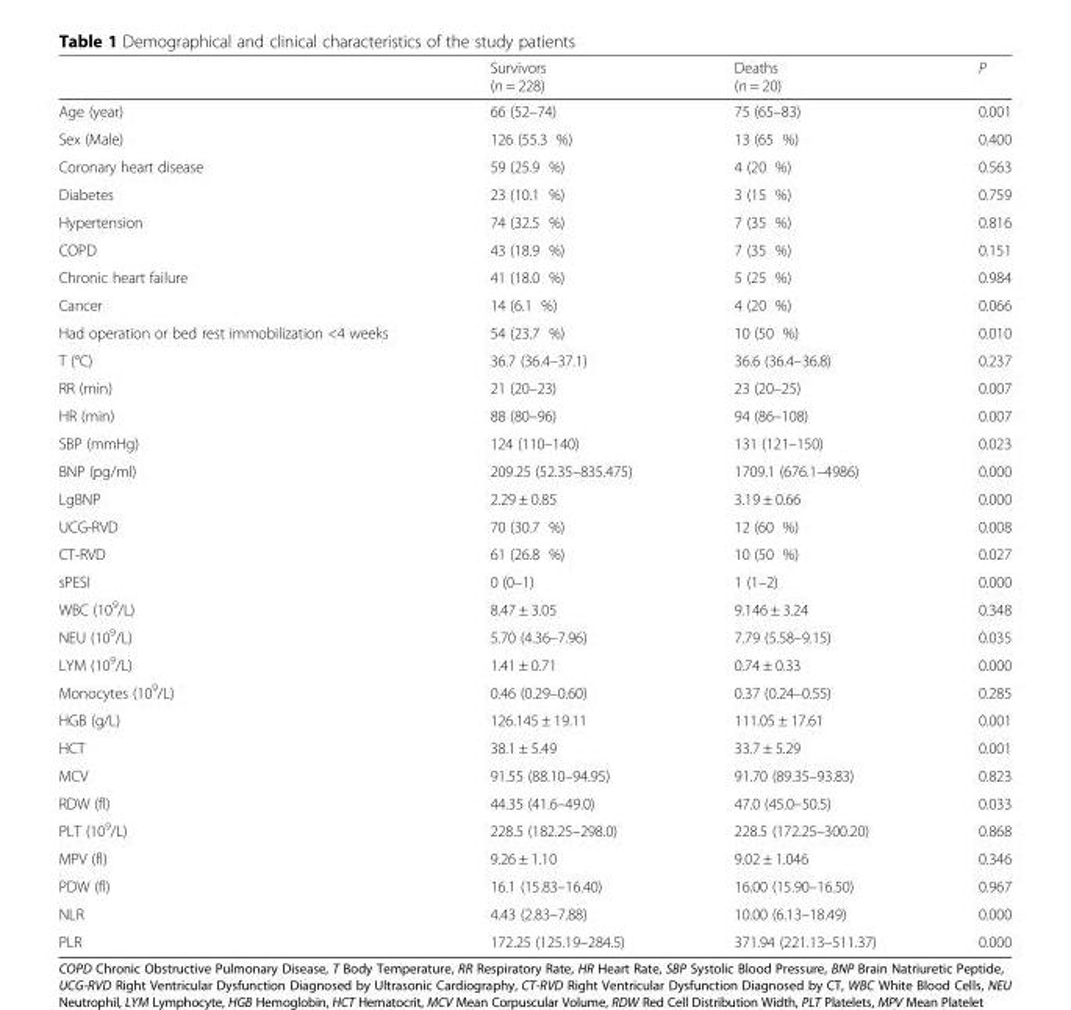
<table><thead><tr><td></td><td>Survivors (n = 228)</td><td>Deaths (n = 20)</td><td>P</td></tr></thead><tbody><tr><td>Age (year)</td><td>66 (52–74)</td><td>75 (65–83)</td><td>0.001</td></tr><tr><td>Sex (Male)</td><td>126 (55.3 %)</td><td>13 (65 %)</td><td>0.400</td></tr><tr><td>Coronary heart disease</td><td>59 (25.9 %)</td><td>4 (20 %)</td><td>0.563</td></tr><tr><td>Diabetes</td><td>23 (10.1 %)</td><td>3 (15 %)</td><td>0.759</td></tr><tr><td>Hypertension</td><td>74 (32.5 %)</td><td>7 (35 %)</td><td>0.816</td></tr><tr><td>COPD</td><td>43 (18.9 %)</td><td>7 (35 %)</td><td>0.151</td></tr><tr><td>Chronic heart failure</td><td>41 (18.0 %)</td><td>5 (25 %)</td><td>0.984</td></tr><tr><td>Cancer</td><td>14 (6.1 %)</td><td>4 (20 %)</td><td>0.066</td></tr><tr><td>Had operation or bed rest immobilization &lt;4 weeks</td><td>54 (23.7 %)</td><td>10 (50 %)</td><td>0.010</td></tr><tr><td>T (°C)</td><td>36.7 (36.4–37.1)</td><td>36.6 (36.4–36.8)</td><td>0.237</td></tr><tr><td>RR (min)</td><td>21 (20–23)</td><td>23 (20–25)</td><td>0.007</td></tr><tr><td>HR (min)</td><td>88 (80–96)</td><td>94 (86–108)</td><td>0.007</td></tr><tr><td>SBP (mmHg)</td><td>124 (110–140)</td><td>131 (121–150)</td><td>0.023</td></tr><tr><td>BNP (pg/ml)</td><td>209.25 (52.35–835.475)</td><td>1709.1 (676.1–4986)</td><td>0.000</td></tr><tr><td>LgBNP</td><td>2.29 ± 0.85</td><td>3.19 ± 0.66</td><td>0.000</td></tr><tr><td>UCG-RVD</td><td>70 (30.7 %)</td><td>12 (60 %)</td><td>0.008</td></tr><tr><td>CT-RVD</td><td>61 (26.8 %)</td><td>10 (50 %)</td><td>0.027</td></tr><tr><td>sPESI</td><td>0 (0–1)</td><td>1 (1–2)</td><td>0.000</td></tr><tr><td>WBC (10<sup>9</sup>/L)</td><td>8.47 ± 3.05</td><td>9.146 ± 3.24</td><td>0.348</td></tr><tr><td>NEU (10<sup>9</sup>/L)</td><td>5.70 (4.36–7.96)</td><td>7.79 (5.58–9.15)</td><td>0.035</td></tr><tr><td>LYM (10<sup>9</sup>/L)</td><td>1.41 ± 0.71</td><td>0.74 ± 0.33</td><td>0.000</td></tr><tr><td>Monocytes (10<sup>9</sup>/L)</td><td>0.46 (0.29–0.60)</td><td>0.37 (0.24–0.55)</td><td>0.285</td></tr><tr><td>HGB (g/L)</td><td>126.145 ± 19.11</td><td>111.05 ± 17.61</td><td>0.001</td></tr><tr><td>HCT</td><td>38.1 ± 5.49</td><td>33.7 ± 5.29</td><td>0.001</td></tr><tr><td>MCV</td><td>91.55 (88.10–94.95)</td><td>91.70 (89.35–93.83)</td><td>0.823</td></tr><tr><td>RDW (fl)</td><td>44.35 (41.6–49.0)</td><td>47.0 (45.0–50.5)</td><td>0.033</td></tr><tr><td>PLT (10<sup>9</sup>/L)</td><td>228.5 (182.25–298.0)</td><td>228.5 (172.25–300.20)</td><td>0.868</td></tr><tr><td>MPV (fl)</td><td>9.26 ± 1.10</td><td>9.02 ± 1.046</td><td>0.346</td></tr><tr><td>PDW (fl)</td><td>16.1 (15.83–16.40)</td><td>16.00 (15.90–16.50)</td><td>0.967</td></tr><tr><td>NLR</td><td>4.43 (2.83–7.88)</td><td>10.00 (6.13–18.49)</td><td>0.000</td></tr><tr><td>PLR</td><td>172.25 (125.19–284.5)</td><td>371.94 (221.13–511.37)</td><td>0.000</td></tr></tbody></table>